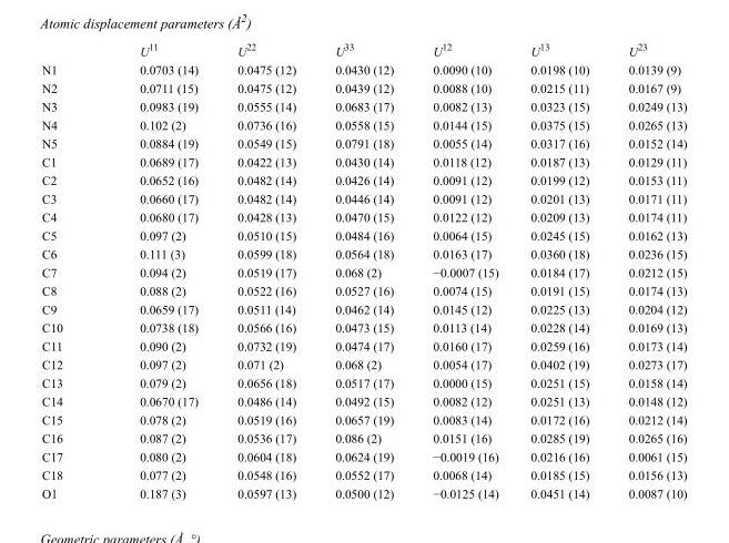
<table><thead><tr><td></td><td>U<sup>11</sup></td><td>U<sup>22</sup></td><td>U<sup>33</sup></td><td>U<sup>12</sup></td><td>U<sup>13</sup></td><td>U<sup>23</sup></td></tr></thead><tbody><tr><td>N1</td><td>0.0703 (14)</td><td>0.0475 (12)</td><td>0.0430 (12)</td><td>0.0090 (10)</td><td>0.0198 (10)</td><td>0.0139 (9)</td></tr><tr><td>N2</td><td>0.0711 (15)</td><td>0.0475 (12)</td><td>0.0439 (12)</td><td>0.0088 (10)</td><td>0.0215 (11)</td><td>0.0167 (9)</td></tr><tr><td>N3</td><td>0.0983 (19)</td><td>0.0555 (14)</td><td>0.0683 (17)</td><td>0.0082 (13)</td><td>0.0323 (15)</td><td>0.0249 (13)</td></tr><tr><td>N4</td><td>0.102 (2)</td><td>0.0736 (16)</td><td>0.0558 (15)</td><td>0.0144 (15)</td><td>0.0375 (15)</td><td>0.0265 (13)</td></tr><tr><td>N5</td><td>0.0884 (19)</td><td>0.0549 (15)</td><td>0.0791 (18)</td><td>0.0055 (14)</td><td>0.0317 (16)</td><td>0.0152 (14)</td></tr><tr><td>C1</td><td>0.0689 (17)</td><td>0.0422 (13)</td><td>0.0430 (14)</td><td>0.0118 (12)</td><td>0.0187 (13)</td><td>0.0129 (11)</td></tr><tr><td>C2</td><td>0.0652 (16)</td><td>0.0482 (14)</td><td>0.0426 (14)</td><td>0.0091 (12)</td><td>0.0199 (12)</td><td>0.0153 (11)</td></tr><tr><td>C3</td><td>0.0660 (17)</td><td>0.0482 (14)</td><td>0.0446 (14)</td><td>0.0091 (12)</td><td>0.0201 (13)</td><td>0.0171 (11)</td></tr><tr><td>C4</td><td>0.0680 (17)</td><td>0.0428 (13)</td><td>0.0470 (15)</td><td>0.0122 (12)</td><td>0.0209 (13)</td><td>0.0174 (11)</td></tr><tr><td>C5</td><td>0.097 (2)</td><td>0.0510 (15)</td><td>0.0484 (16)</td><td>0.0064 (15)</td><td>0.0245 (15)</td><td>0.0162 (13)</td></tr><tr><td>C6</td><td>0.111 (3)</td><td>0.0599 (18)</td><td>0.0564 (18)</td><td>0.0163 (17)</td><td>0.0360 (18)</td><td>0.0236 (15)</td></tr><tr><td>C7</td><td>0.094 (2)</td><td>0.0519 (17)</td><td>0.068 (2)</td><td>−0.0007 (15)</td><td>0.0184 (17)</td><td>0.0212 (15)</td></tr><tr><td>C8</td><td>0.088 (2)</td><td>0.0522 (16)</td><td>0.0527 (16)</td><td>0.0074 (15)</td><td>0.0191 (15)</td><td>0.0174 (13)</td></tr><tr><td>C9</td><td>0.0659 (17)</td><td>0.0511 (14)</td><td>0.0462 (14)</td><td>0.0145 (12)</td><td>0.0225 (13)</td><td>0.0204 (12)</td></tr><tr><td>C10</td><td>0.0738 (18)</td><td>0.0566 (16)</td><td>0.0473 (15)</td><td>0.0113 (14)</td><td>0.0228 (14)</td><td>0.0169 (13)</td></tr><tr><td>C11</td><td>0.090 (2)</td><td>0.0732 (19)</td><td>0.0474 (17)</td><td>0.0160 (17)</td><td>0.0259 (16)</td><td>0.0173 (14)</td></tr><tr><td>C12</td><td>0.097 (2)</td><td>0.071 (2)</td><td>0.068 (2)</td><td>0.0054 (17)</td><td>0.0402 (19)</td><td>0.0273 (17)</td></tr><tr><td>C13</td><td>0.079 (2)</td><td>0.0656 (18)</td><td>0.0517 (17)</td><td>0.0000 (15)</td><td>0.0251 (15)</td><td>0.0158 (14)</td></tr><tr><td>C14</td><td>0.0670 (17)</td><td>0.0486 (14)</td><td>0.0492 (15)</td><td>0.0082 (12)</td><td>0.0251 (13)</td><td>0.0148 (12)</td></tr><tr><td>C15</td><td>0.078 (2)</td><td>0.0519 (16)</td><td>0.0657 (19)</td><td>0.0083 (14)</td><td>0.0172 (16)</td><td>0.0212 (14)</td></tr><tr><td>C16</td><td>0.087 (2)</td><td>0.0536 (17)</td><td>0.086 (2)</td><td>0.0151 (16)</td><td>0.0285 (19)</td><td>0.0265 (16)</td></tr><tr><td>C17</td><td>0.080 (2)</td><td>0.0604 (18)</td><td>0.0624 (19)</td><td>−0.0019 (16)</td><td>0.0216 (16)</td><td>0.0061 (15)</td></tr><tr><td>C18</td><td>0.077 (2)</td><td>0.0548 (16)</td><td>0.0552 (17)</td><td>0.0068 (14)</td><td>0.0185 (15)</td><td>0.0156 (13)</td></tr><tr><td>O1</td><td>0.187 (3)</td><td>0.0597 (13)</td><td>0.0500 (12)</td><td>−0.0125 (14)</td><td>0.0451 (14)</td><td>0.0087 (10)</td></tr></tbody></table>